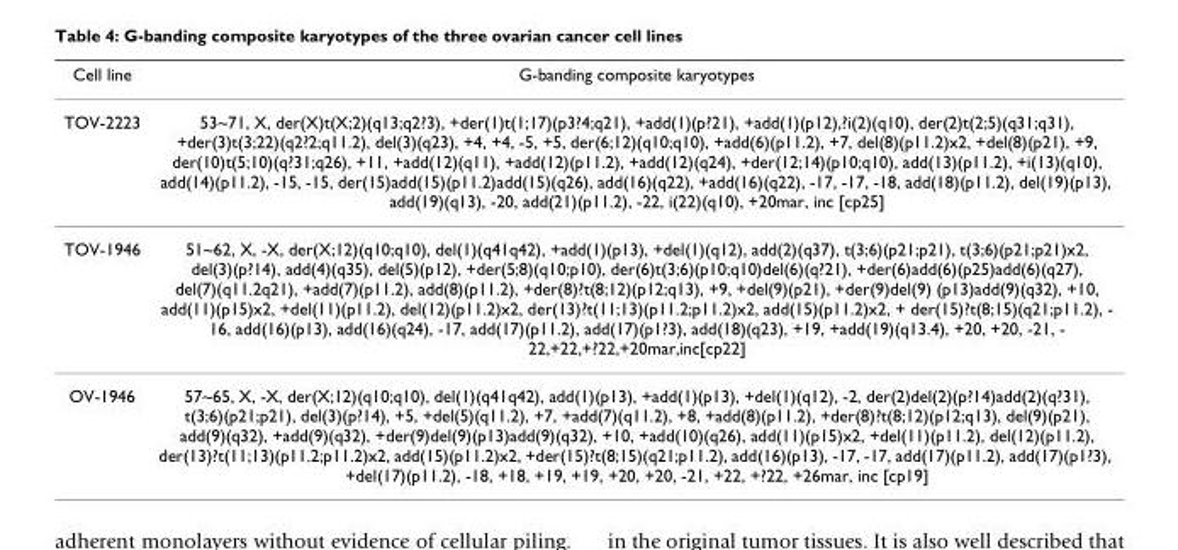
<table><thead><tr><td>Cell line</td><td>G-banding composite karyotypes</td></tr></thead><tbody><tr><td>TOV-2223</td><td>53~71, X, der(X)t(X;2)(q13;q2?3), +der(1)t(1;17)(p3?4;q21), +add(1)(p?21), +add(1)(p12),?i(2)(q10), der(2)t(2;5)(q31;q31), +der(3)t(3;22)(q2?2;q11.2), del(3)(q23), +4, +4, -5, +5, der(6;12)(q10;q10), +add(6)(p11.2), +7, del(8)(p11.2)x2, +del(8)(p21), +9, der(10)t(5;10)(q?31;q26), +11, +add(12)(q11), +add(12)(p11.2), +add(12)(q24), +der(12;14)(p10;q10), add(13)(p11.2), +i(13)(q10), add(14)(p11.2), -15, -15, der(15)add(15)(p11.2)add(15)(q26), add(16)(q22), +add(16)(q22), -17, -17, -18, add(18)(p11.2), del(19)(p13), add(19)(q13), -20, add(21)(p11.2), -22, i(22)(q10), +20mar, inc [cp25]</td></tr><tr><td>TOV-1946</td><td>51~62, X, -X, der(X;12)(q10;q10), del(1)(q41q42), +add(1)(p13), +del(1)(q12), add(2)(q37), t(3;6)(p21;p21), t(3;6)(p21;p21)x2, del(3)(p?14), add(4)(q35), del(5)(p12), +der(5;8)(q10;p10), der(6)t(3;6)(p10;q10)del(6)(q?21), +der(6)add(6)(p25)add(6)(q27), del(7)(q11.2q21), +add(7)(p11.2), add(8)(p11.2), +der(8)?t(8;12)(p12;q13), +9, +del(9)(p21), +der(9)del(9) (p13)add(9)(q32), +10, add(11)(p15)x2, +del(11)(p11.2), del(12)(p11.2)x2, der(13)?t(11;13)(p11.2;p11.2)x2, add(15)(p11.2)x2, + der(15)?t(8;15)(q21;p11.2), - 16, add(16)(p13), add(16)(q24), -17, add(17)(p11.2), add(17)(p1?3), add(18)(q23), +19, +add(19)(q13.4), +20, +20, -21, - 22,+22,+?22,+20mar,inc[cp22]</td></tr><tr><td>OV-1946</td><td>57~65, X, -X, der(X;12)(q10;q10), del(1)(q41q42), add(1)(p13), +add(1)(p13), +del(1)(q12), -2, der(2)del(2)(p?14)add(2)(q?31), t(3;6)(p21;p21), del(3)(p?14), +5, +del(5)(q11.2), +7, +add(7)(q11.2), +8, +add(8)(p11.2), +der(8)?t(8;12)(p12;q13), del(9)(p21), add(9)(q32), +add(9)(q32), +der(9)del(9)(p13)add(9)(q32), +10, +add(10)(q26), add(11)(p15)x2, +del(11)(p11.2), del(12)(p11.2), der(13)?t(11;13)(p11.2;p11.2)x2, add(15)(p11.2)x2, +der(15)?t(8;15)(q21;p11.2), add(16)(p13), -17, -17, add(17)(p11.2), add(17)(p1?3), +del(17)(p11.2), -18, +18, +19, +19, +20, +20, -21, +22, +?22, +26mar, inc [cp19]</td></tr></tbody></table>